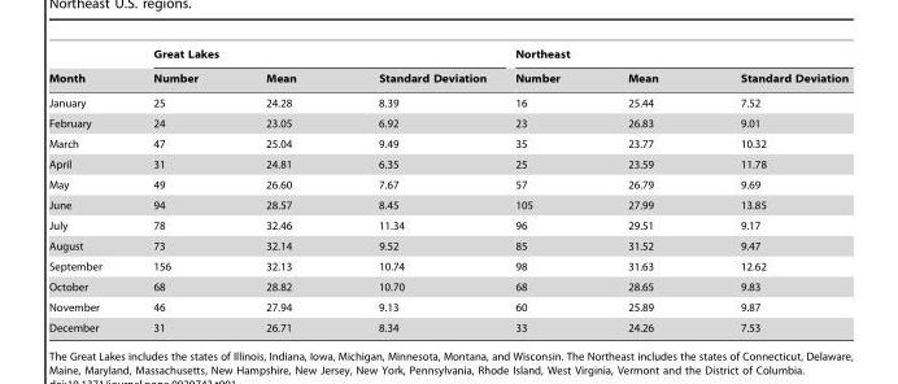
<table><thead><tr><td rowspan="2">Month</td><td colspan="3">Great Lakes</td><td colspan="3">Northeast</td></tr><tr><td>Number</td><td>Mean</td><td>Standard Deviation</td><td>Number</td><td>Mean</td><td>Standard Deviation</td></tr></thead><tbody><tr><td>January</td><td>25</td><td>24.28</td><td>8.39</td><td>16</td><td>25.44</td><td>7.52</td></tr><tr><td>February</td><td>24</td><td>23.05</td><td>6.92</td><td>23</td><td>26.83</td><td>9.01</td></tr><tr><td>March</td><td>47</td><td>25.04</td><td>9.49</td><td>35</td><td>23.77</td><td>10.32</td></tr><tr><td>April</td><td>31</td><td>24.81</td><td>6.35</td><td>25</td><td>23.59</td><td>11.78</td></tr><tr><td>May</td><td>49</td><td>26.60</td><td>7.67</td><td>57</td><td>26.79</td><td>9.69</td></tr><tr><td>June</td><td>94</td><td>28.57</td><td>8.45</td><td>105</td><td>27.99</td><td>13.85</td></tr><tr><td>July</td><td>78</td><td>32.46</td><td>11.34</td><td>96</td><td>29.51</td><td>9.17</td></tr><tr><td>August</td><td>73</td><td>32.14</td><td>9.52</td><td>85</td><td>31.52</td><td>9.47</td></tr><tr><td>September</td><td>156</td><td>32.13</td><td>10.74</td><td>98</td><td>31.63</td><td>12.62</td></tr><tr><td>October</td><td>68</td><td>28.82</td><td>10.70</td><td>68</td><td>28.65</td><td>9.83</td></tr><tr><td>November</td><td>46</td><td>27.94</td><td>9.13</td><td>60</td><td>25.89</td><td>9.87</td></tr><tr><td>December</td><td>31</td><td>26.71</td><td>8.34</td><td>33</td><td>24.26</td><td>7.53</td></tr></tbody></table>